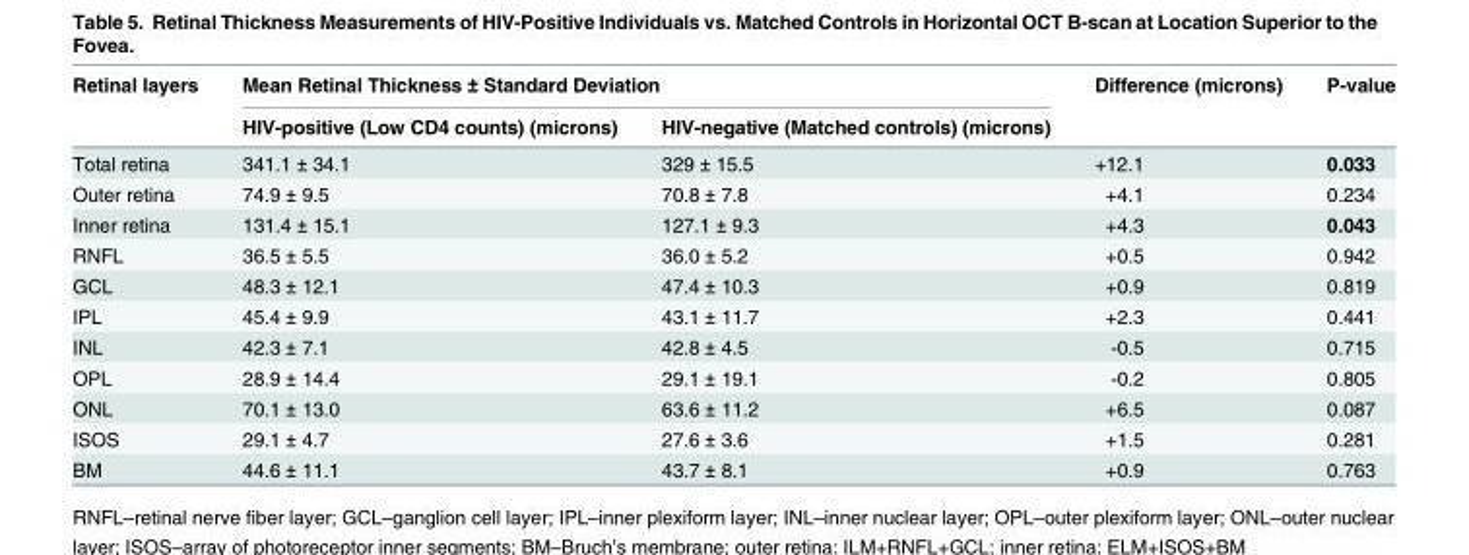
<table><thead><tr><td rowspan="2">Retinal layers</td><td colspan="2">Mean Retinal Thickness ± Standard Deviation</td><td rowspan="2">Difference (microns)</td><td rowspan="2">P-value</td></tr><tr><td>HIV-positive (Low CD4 counts) (microns)</td><td>HIV-negative (Matched controls) (microns)</td></tr></thead><tbody><tr><td>Total retina</td><td>341.1 ± 34.1</td><td>329 ± 15.5</td><td>+12.1</td><td>0.033</td></tr><tr><td>Outer retina</td><td>74.9 ± 9.5</td><td>70.8 ± 7.8</td><td>+4.1</td><td>0.234</td></tr><tr><td>Inner retina</td><td>131.4 ± 15.1</td><td>127.1 ± 9.3</td><td>+4.3</td><td>0.043</td></tr><tr><td>RNFL</td><td>36.5 ± 5.5</td><td>36.0 ± 5.2</td><td>+0.5</td><td>0.942</td></tr><tr><td>GCL</td><td>48.3 ± 12.1</td><td>47.4 ± 10.3</td><td>+0.9</td><td>0.819</td></tr><tr><td>IPL</td><td>45.4 ± 9.9</td><td>43.1 ± 11.7</td><td>+2.3</td><td>0.441</td></tr><tr><td>INL</td><td>42.3 ± 7.1</td><td>42.8 ± 4.5</td><td>-0.5</td><td>0.715</td></tr><tr><td>OPL</td><td>28.9 ± 14.4</td><td>29.1 ± 19.1</td><td>-0.2</td><td>0.805</td></tr><tr><td>ONL</td><td>70.1 ± 13.0</td><td>63.6 ± 11.2</td><td>+6.5</td><td>0.087</td></tr><tr><td>ISOS</td><td>29.1 ± 4.7</td><td>27.6 ± 3.6</td><td>+1.5</td><td>0.281</td></tr><tr><td>BM</td><td>44.6 ± 11.1</td><td>43.7 ± 8.1</td><td>+0.9</td><td>0.763</td></tr></tbody></table>